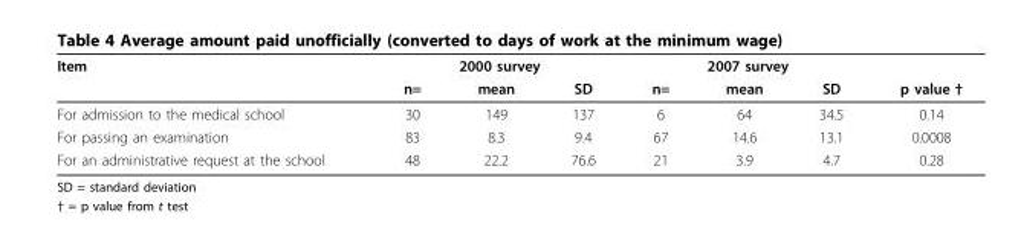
<table><thead><tr><td rowspan="2">Item</td><td colspan="3">2000 survey</td><td colspan="3">2007 survey</td><td rowspan="2">p value †</td></tr><tr><td>n=</td><td>mean</td><td>SD</td><td>n=</td><td>mean</td><td>SD</td></tr></thead><tbody><tr><td>For admission to the medical school</td><td>30</td><td>149</td><td>137</td><td>6</td><td>64</td><td>34.5</td><td>0.14</td></tr><tr><td>For passing an examination</td><td>83</td><td>8.3</td><td>9.4</td><td>67</td><td>14.6</td><td>13.1</td><td>0.0008</td></tr><tr><td>For an administrative request at the school</td><td>48</td><td>22.2</td><td>76.6</td><td>21</td><td>3.9</td><td>4.7</td><td>0.28</td></tr></tbody></table>